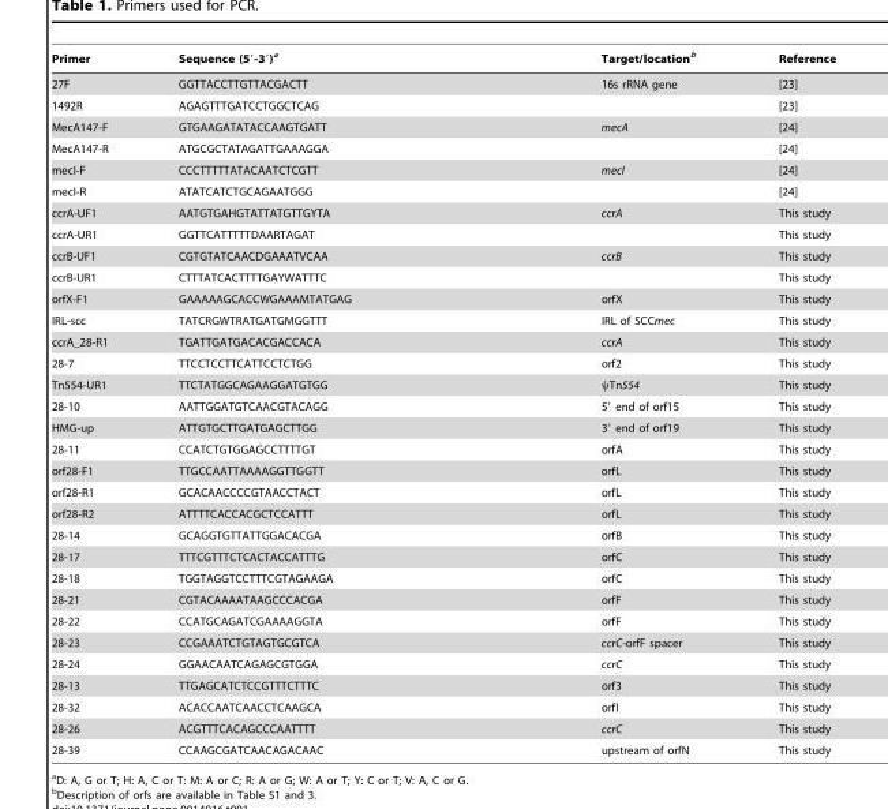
<table><thead><tr><td>Primer</td><td>Sequence (5′-3′)<sup>a</sup></td><td>Target/location<sup>b</sup></td><td>Reference</td></tr></thead><tbody><tr><td>27F</td><td>GGTTACCTTGTTACGACTT</td><td>16s rRNA gene</td><td>[23]</td></tr><tr><td>1492R</td><td>AGAGTTTGATCCTGGCTCAG</td><td></td><td>[23]</td></tr><tr><td>MecA147-F</td><td>GTGAAGATATACCAAGTGATT</td><td>mecA</td><td>[24]</td></tr><tr><td>MecA147-R</td><td>ATGCGCTATAGATTGAAAGGA</td><td></td><td>[24]</td></tr><tr><td>mecI-F</td><td>CCCTTTTTATACAATCTCGTT</td><td>mecI</td><td>[24]</td></tr><tr><td>mecI-R</td><td>ATATCATCTGCAGAATGGG</td><td></td><td>[24]</td></tr><tr><td>ccrA-UF1</td><td>AATGTGAHGTATTATGTTGYTA</td><td>ccrA</td><td>This study</td></tr><tr><td>ccrA-UR1</td><td>GGTTCATTTTTDAARTAGAT</td><td></td><td>This study</td></tr><tr><td>ccrB-UF1</td><td>CGTGTATCAACDGAAATVCAA</td><td>ccrB</td><td>This study</td></tr><tr><td>ccrB-UR1</td><td>CTTTATCACTTTTGAYWATTTC</td><td></td><td>This study</td></tr><tr><td>orfX-F1</td><td>GAAAAAGCACCWGAAAMTATGAG</td><td>orfX</td><td>This study</td></tr><tr><td>IRL-scc</td><td>TATCRGWTRATGATGMGGTTT</td><td>IRL of SCCmec</td><td>This study</td></tr><tr><td>ccrA_28-R1</td><td>TGATTGATGACACGACCACA</td><td>ccrA</td><td>This study</td></tr><tr><td>28-7</td><td>TTCCTCCTTCATTCCTCTGG</td><td>orf2</td><td>This study</td></tr><tr><td>Tn554-UR1</td><td>TTCTATGGCAGAAGGATGTGG</td><td>ψTn554</td><td>This study</td></tr><tr><td>28-10</td><td>AATTGGATGTCAACGTACAGG</td><td>5′ end of orf15</td><td>This study</td></tr><tr><td>HMG-up</td><td>ATTGTGCTTGATGAGCTTGG</td><td>3′ end of orf19</td><td>This study</td></tr><tr><td>28-11</td><td>CCATCTGTGGAGCCTTTTGT</td><td>orfA</td><td>This study</td></tr><tr><td>orf28-F1</td><td>TTGCCAATTAAAAGGTTGGTT</td><td>orfL</td><td>This study</td></tr><tr><td>orf28-R1</td><td>GCACAACCCCGTAACCTACT</td><td>orfL</td><td>This study</td></tr><tr><td>orf28-R2</td><td>ATTTTCACCACGCTCCATTT</td><td>orfL</td><td>This study</td></tr><tr><td>28-14</td><td>GCAGGTGTTATTGGACACGA</td><td>orfB</td><td>This study</td></tr><tr><td>28-17</td><td>TTTCGTTTCTCACTACCATTTG</td><td>orfC</td><td>This study</td></tr><tr><td>28-18</td><td>TGGTAGGTCCTTTCGTAGAAGA</td><td>orfC</td><td>This study</td></tr><tr><td>28-21</td><td>CGTACAAAATAAGCCCACGA</td><td>orfF</td><td>This study</td></tr><tr><td>28-22</td><td>CCATGCAGATCGAAAAGGTA</td><td>orfF</td><td>This study</td></tr><tr><td>28-23</td><td>CCGAAATCTGTAGTGCGTCA</td><td>ccrC-orfF spacer</td><td>This study</td></tr><tr><td>28-24</td><td>GGAACAATCAGAGCGTGGA</td><td>ccrC</td><td>This study</td></tr><tr><td>28-13</td><td>TTGAGCATCTCCGTTTCTTTC</td><td>orf3</td><td>This study</td></tr><tr><td>28-32</td><td>ACACCAATCAACCTCAAGCA</td><td>orfI</td><td>This study</td></tr><tr><td>28-26</td><td>ACGTTTCACAGCCCAATTTT</td><td>ccrC</td><td>This study</td></tr><tr><td>28-39</td><td>CCAAGCGATCAACAGACAAC</td><td>upstream of orfN</td><td>This study</td></tr></tbody></table>